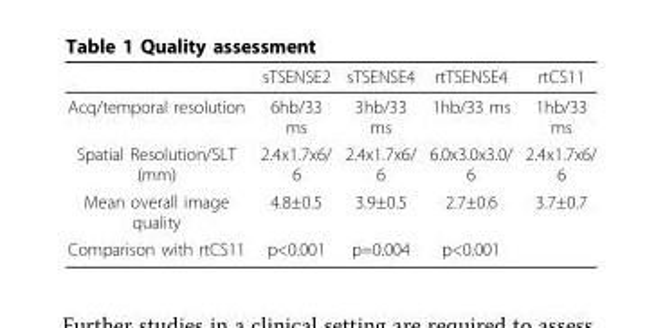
<table><thead><tr><td></td><td>sTSENSE2</td><td>sTSENSE4</td><td>rtTSENSE4</td><td>rtCS11</td></tr></thead><tbody><tr><td>Acq/temporal resolution</td><td>6hb/33 ms</td><td>3hb/33 ms</td><td>1hb/33 ms</td><td>1hb/33 ms</td></tr><tr><td>Spatial Resolution/SLT (mm)</td><td>2.4x1.7x6/ 6</td><td>2.4x1.7x6/ 6</td><td>6.0x3.0x3.0/ 6</td><td>2.4x1.7x6/ 6</td></tr><tr><td>Mean overall image quality</td><td>4.8±0.5</td><td>3.9±0.5</td><td>2.7±0.6</td><td>3.7±0.7</td></tr><tr><td>Comparison with rtCS11</td><td>p&lt;0.001</td><td>p=0.004</td><td>p&lt;0.001</td><td></td></tr></tbody></table>